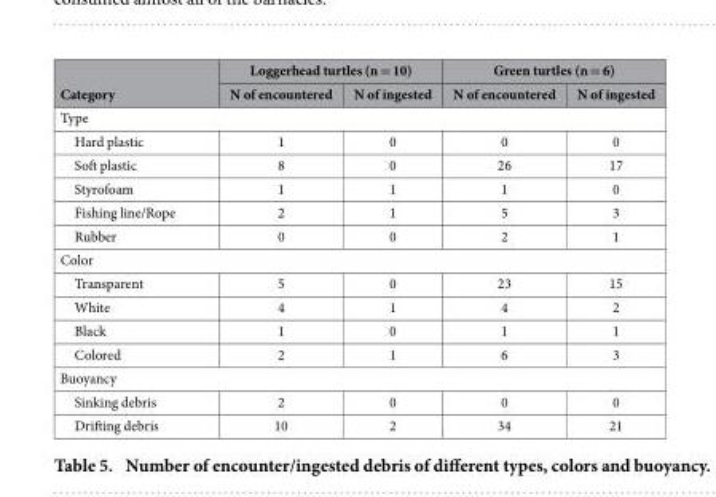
<table><thead><tr><td rowspan="2">Category</td><td colspan="2">Loggerhead turtles (n = 10)</td><td colspan="2">Green turtles (n = 6)</td></tr><tr><td>N of encountered</td><td>N of ingested</td><td>N of encountered</td><td>N of ingested</td></tr></thead><tbody><tr><td colspan="5">Type</td></tr><tr><td>Hard plastic</td><td>1</td><td>0</td><td>0</td><td>0</td></tr><tr><td>Soft plastic</td><td>8</td><td>0</td><td>26</td><td>17</td></tr><tr><td>Styrofoam</td><td>1</td><td>1</td><td>1</td><td>0</td></tr><tr><td>Fishing line/Rope</td><td>2</td><td>1</td><td>5</td><td>3</td></tr><tr><td>Rubber</td><td>0</td><td>0</td><td>2</td><td>1</td></tr><tr><td colspan="5">Color</td></tr><tr><td>Transparent</td><td>5</td><td>0</td><td>23</td><td>15</td></tr><tr><td>White</td><td>4</td><td>1</td><td>4</td><td>2</td></tr><tr><td>Black</td><td>1</td><td>0</td><td>1</td><td>1</td></tr><tr><td>Colored</td><td>2</td><td>1</td><td>6</td><td>3</td></tr><tr><td colspan="5">Buoyancy</td></tr><tr><td>Sinking debris</td><td>2</td><td>0</td><td>0</td><td>0</td></tr><tr><td>Drifting debris</td><td>10</td><td>2</td><td>34</td><td>21</td></tr></tbody></table>